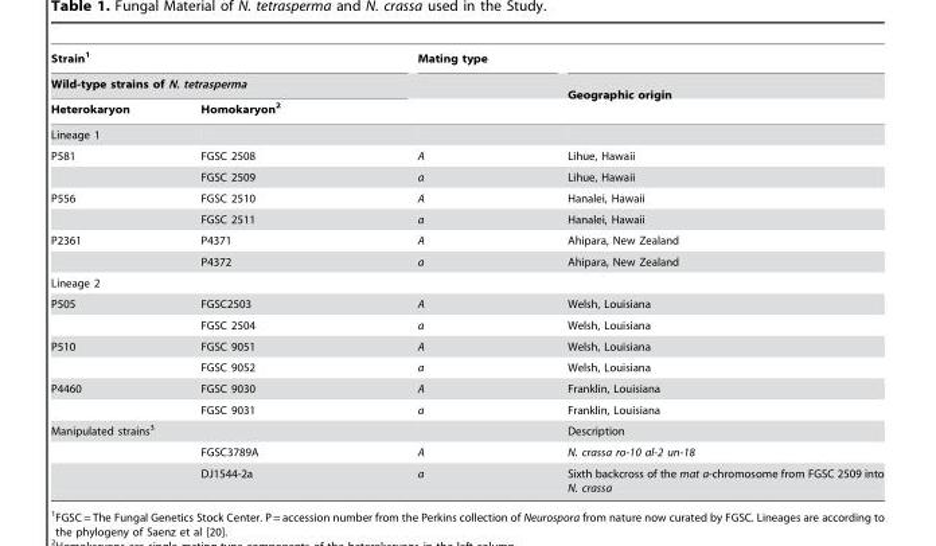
<table><thead><tr><td rowspan="2" colspan="2">Strain<sup>1</sup> Wild-type strains of N. tetrasperma</td><td rowspan="3">Mating type</td><td rowspan="3">Geographic origin</td></tr><tr></tr><tr><td>Heterokaryon</td><td>Homokaryon<sup>2</sup></td></tr></thead><tbody><tr><td colspan="4">Lineage 1</td></tr><tr><td rowspan="2">P581</td><td>FGSC 2508</td><td>A</td><td>Lihue, Hawaii</td></tr><tr><td>FGSC 2509</td><td>a</td><td>Lihue, Hawaii</td></tr><tr><td rowspan="2">P556</td><td>FGSC 2510</td><td>A</td><td>Hanalei, Hawaii</td></tr><tr><td>FGSC 2511</td><td>a</td><td>Hanalei, Hawaii</td></tr><tr><td rowspan="2">P2361</td><td>P4371</td><td>A</td><td>Ahipara, New Zealand</td></tr><tr><td>P4372</td><td>a</td><td>Ahipara, New Zealand</td></tr><tr><td colspan="4">Lineage 2</td></tr><tr><td rowspan="2">P505</td><td>FGSC2503</td><td>A</td><td>Welsh, Louisiana</td></tr><tr><td>FGSC 2504</td><td>a</td><td>Welsh, Louisiana</td></tr><tr><td rowspan="2">P510</td><td>FGSC 9051</td><td>A</td><td>Welsh, Louisiana</td></tr><tr><td>FGSC 9052</td><td>a</td><td>Welsh, Louisiana</td></tr><tr><td rowspan="2">P4460</td><td>FGSC 9030</td><td>A</td><td>Franklin, Louisiana</td></tr><tr><td>FGSC 9031</td><td>a</td><td>Franklin, Louisiana</td></tr><tr><td colspan="2">Manipulated strains<sup>3</sup></td><td></td><td>Description</td></tr><tr><td></td><td>FGSC3789A</td><td>A</td><td>N. crassa ro-10 al-2 un-18</td></tr><tr><td></td><td>DJ1544-2a</td><td>a</td><td>Sixth backcross of the mat a-chromosome from FGSC 2509 into N. crassa</td></tr></tbody></table>